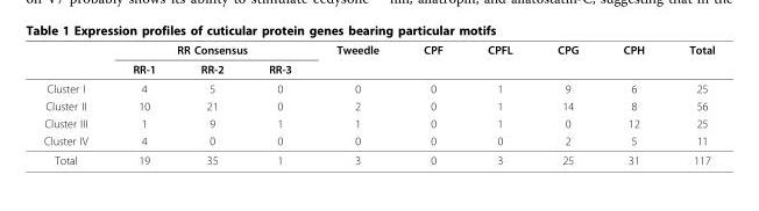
<table><thead><tr><td rowspan="2"></td><td colspan="3">RR Consensus</td><td rowspan="2">Tweedle</td><td rowspan="2">CPF</td><td rowspan="2">CPFL</td><td rowspan="2">CPG</td><td rowspan="2">CPH</td><td rowspan="2">Total</td></tr><tr><td>RR-1</td><td>RR-2</td><td>RR-3</td></tr></thead><tbody><tr><td>Cluster I</td><td>4</td><td>5</td><td>0</td><td>0</td><td>0</td><td>1</td><td>9</td><td>6</td><td>25</td></tr><tr><td>Cluster II</td><td>10</td><td>21</td><td>0</td><td>2</td><td>0</td><td>1</td><td>14</td><td>8</td><td>56</td></tr><tr><td>Cluster III</td><td>1</td><td>9</td><td>1</td><td>1</td><td>0</td><td>1</td><td>0</td><td>12</td><td>25</td></tr><tr><td>Cluster IV</td><td>4</td><td>0</td><td>0</td><td>0</td><td>0</td><td>0</td><td>2</td><td>5</td><td>11</td></tr><tr><td>Total</td><td>19</td><td>35</td><td>1</td><td>3</td><td>0</td><td>3</td><td>25</td><td>31</td><td>117</td></tr></tbody></table>